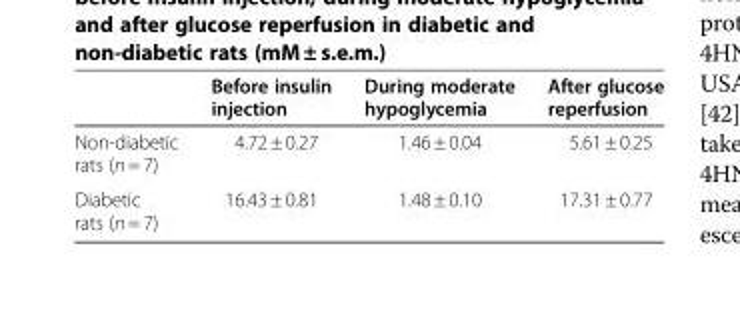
<table><thead><tr><td></td><td>Before insulin injection</td><td>During moderate hypoglycemia</td><td>After glucose reperfusion</td></tr></thead><tbody><tr><td>Non-diabetic rats (n = 7)</td><td>4.72 ± 0.27</td><td>1.46 ± 0.04</td><td>5.61 ± 0.25</td></tr><tr><td>Diabetic rats (n = 7)</td><td>16.43 ± 0.81</td><td>1.48 ± 0.10</td><td>17.31 ± 0.77</td></tr></tbody></table>